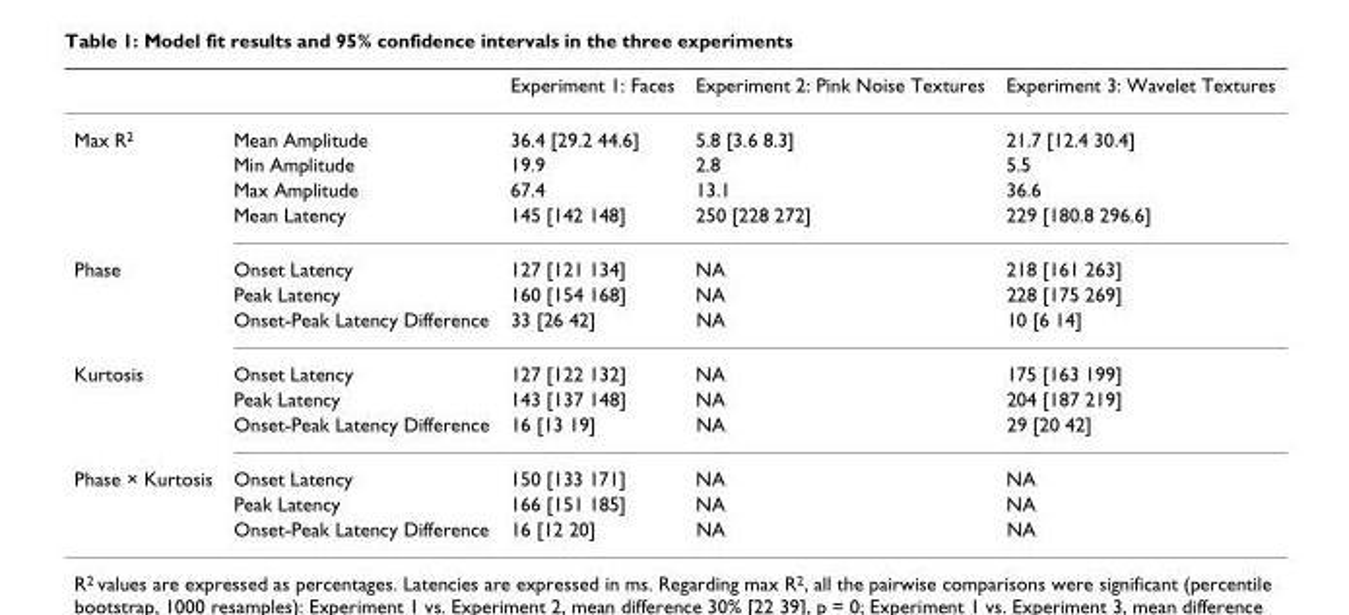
<table><thead><tr><td></td><td></td><td>Experiment 1: Faces</td><td>Experiment 2: Pink Noise Textures</td><td>Experiment 3: Wavelet Textures</td></tr></thead><tbody><tr><td rowspan="4">Max R<sup>2</sup></td><td>Mean Amplitude</td><td>36.4 [29.2 44.6]</td><td>5.8 [3.6 8.3]</td><td>21.7 [12.4 30.4]</td></tr><tr><td>Min Amplitude</td><td>19.9</td><td>2.8</td><td>5.5</td></tr><tr><td>Max Amplitude</td><td>67.4</td><td>13.1</td><td>36.6</td></tr><tr><td>Mean Latency</td><td>145 [142 148]</td><td>250 [228 272]</td><td>229 [180.8 296.6]</td></tr><tr><td rowspan="3">Phase</td><td>Onset Latency</td><td>127 [121 134]</td><td>NA</td><td>218 [161 263]</td></tr><tr><td>Peak Latency</td><td>160 [154 168]</td><td>NA</td><td>228 [175 269]</td></tr><tr><td>Onset-Peak Latency Difference</td><td>33 [26 42]</td><td>NA</td><td>10 [6 14]</td></tr><tr><td rowspan="3">Kurtosis</td><td>Onset Latency</td><td>127 [122 132]</td><td>NA</td><td>175 [163 199]</td></tr><tr><td>Peak Latency</td><td>143 [137 148]</td><td>NA</td><td>204 [187 219]</td></tr><tr><td>Onset-Peak Latency Difference</td><td>16 [13 19]</td><td>NA</td><td>29 [20 42]</td></tr><tr><td rowspan="3">Phase × Kurtosis</td><td>Onset Latency</td><td>150 [133 171]</td><td>NA</td><td>NA</td></tr><tr><td>Peak Latency</td><td>166 [151 185]</td><td>NA</td><td>NA</td></tr><tr><td>Onset-Peak Latency Difference</td><td>16 [12 20]</td><td>NA</td><td>NA</td></tr></tbody></table>